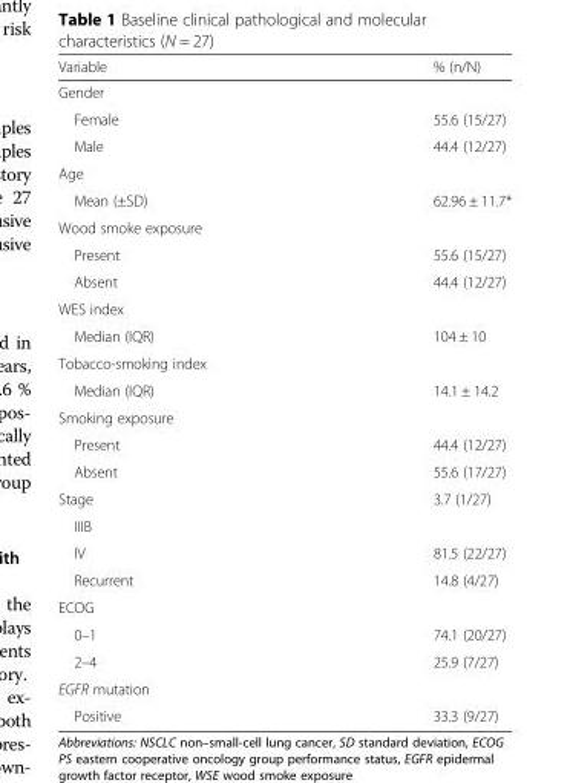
<table><thead><tr><td>Variable</td><td>% (n/N)</td></tr></thead><tbody><tr><td colspan="2">Gender</td></tr><tr><td>Female</td><td>55.6 (15/27)</td></tr><tr><td>Male</td><td>44.4 (12/27)</td></tr><tr><td colspan="2">Age</td></tr><tr><td>Mean (±SD)</td><td>62.96 ± 11.7*</td></tr><tr><td colspan="2">Wood smoke exposure</td></tr><tr><td>Present</td><td>55.6 (15/27)</td></tr><tr><td>Absent</td><td>44.4 (12/27)</td></tr><tr><td colspan="2">WES index</td></tr><tr><td>Median (IQR)</td><td>104 ± 10</td></tr><tr><td colspan="2">Tobacco-smoking index</td></tr><tr><td>Median (IQR)</td><td>14.1 ± 14.2</td></tr><tr><td colspan="2">Smoking exposure</td></tr><tr><td>Present</td><td>44.4 (12/27)</td></tr><tr><td>Absent</td><td>55.6 (17/27)</td></tr><tr><td>Stage</td><td>3.7 (1/27)</td></tr><tr><td colspan="2">IIIB</td></tr><tr><td>IV</td><td>81.5 (22/27)</td></tr><tr><td>Recurrent</td><td>14.8 (4/27)</td></tr><tr><td colspan="2">ECOG</td></tr><tr><td>0–1</td><td>74.1 (20/27)</td></tr><tr><td>2–4</td><td>25.9 (7/27)</td></tr><tr><td colspan="2">EGFR mutation</td></tr><tr><td>Positive</td><td>33.3 (9/27)</td></tr></tbody></table>